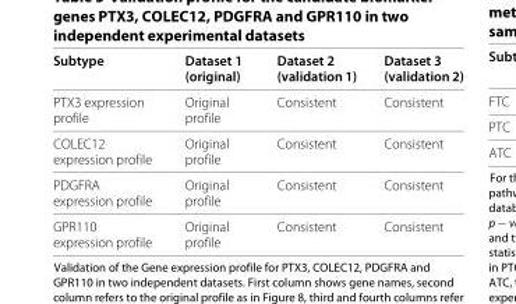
<table><thead><tr><td>Subtype</td><td>Dataset 1 (original)</td><td>Dataset 2 (validation 1)</td><td>Dataset 3 (validation 2)</td></tr></thead><tbody><tr><td>PTX3 expression profile</td><td>Original profile</td><td>Consistent</td><td>Consistent</td></tr><tr><td>COLEC12 expression profile</td><td>Original profile</td><td>Consistent</td><td>Consistent</td></tr><tr><td>PDGFRA expression profile</td><td>Original profile</td><td>Consistent</td><td>Consistent</td></tr><tr><td>GPR110 expression profile</td><td>Original profile</td><td>Consistent</td><td>Consistent</td></tr></tbody></table>